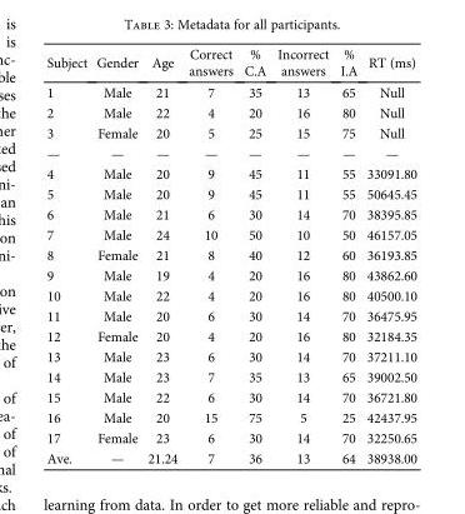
<table><thead><tr><td>Subject</td><td>Gender</td><td>Age</td><td>Correct answers</td><td>% C.A</td><td>Incorrect answers</td><td>% I.A</td><td>RT (ms)</td></tr></thead><tbody><tr><td>1</td><td>Male</td><td>21</td><td>7</td><td>35</td><td>13</td><td>65</td><td>Null</td></tr><tr><td>2</td><td>Male</td><td>22</td><td>4</td><td>20</td><td>16</td><td>80</td><td>Null</td></tr><tr><td>3</td><td>Female</td><td>20</td><td>5</td><td>25</td><td>15</td><td>75</td><td>Null</td></tr><tr><td>—</td><td>—</td><td>—</td><td>—</td><td>—</td><td>—</td><td>—</td><td>—</td></tr><tr><td>4</td><td>Male</td><td>20</td><td>9</td><td>45</td><td>11</td><td>55</td><td>33091.80</td></tr><tr><td>5</td><td>Male</td><td>20</td><td>9</td><td>45</td><td>11</td><td>55</td><td>50645.45</td></tr><tr><td>6</td><td>Male</td><td>21</td><td>6</td><td>30</td><td>14</td><td>70</td><td>38395.85</td></tr><tr><td>7</td><td>Male</td><td>24</td><td>10</td><td>50</td><td>10</td><td>50</td><td>46157.05</td></tr><tr><td>8</td><td>Female</td><td>21</td><td>8</td><td>40</td><td>12</td><td>60</td><td>36193.85</td></tr><tr><td>9</td><td>Male</td><td>19</td><td>4</td><td>20</td><td>16</td><td>80</td><td>43862.60</td></tr><tr><td>10</td><td>Male</td><td>22</td><td>4</td><td>20</td><td>16</td><td>80</td><td>40500.10</td></tr><tr><td>11</td><td>Male</td><td>20</td><td>6</td><td>30</td><td>14</td><td>70</td><td>36475.95</td></tr><tr><td>12</td><td>Female</td><td>20</td><td>4</td><td>20</td><td>16</td><td>80</td><td>32184.35</td></tr><tr><td>13</td><td>Male</td><td>23</td><td>6</td><td>30</td><td>14</td><td>70</td><td>37211.10</td></tr><tr><td>14</td><td>Male</td><td>23</td><td>7</td><td>35</td><td>13</td><td>65</td><td>39002.50</td></tr><tr><td>15</td><td>Male</td><td>22</td><td>6</td><td>30</td><td>14</td><td>70</td><td>36721.80</td></tr><tr><td>16</td><td>Male</td><td>20</td><td>15</td><td>75</td><td>5</td><td>25</td><td>42437.95</td></tr><tr><td>17</td><td>Female</td><td>23</td><td>6</td><td>30</td><td>14</td><td>70</td><td>32250.65</td></tr><tr><td>Ave.</td><td>—</td><td>21.24</td><td>7</td><td>36</td><td>13</td><td>64</td><td>38938.00</td></tr></tbody></table>